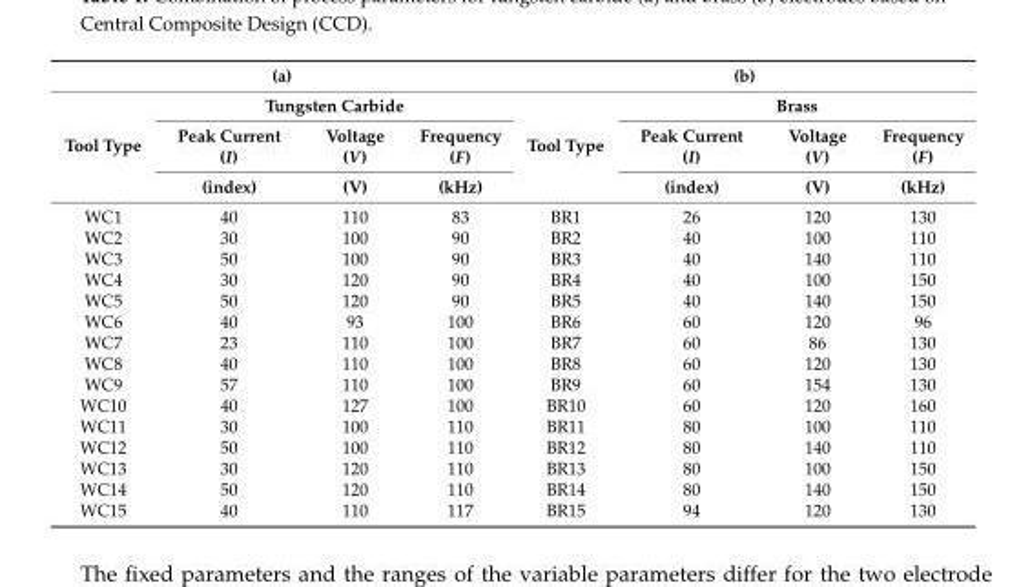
<table><thead><tr><td colspan="4">(a)</td><td colspan="4">(b)</td></tr><tr><td rowspan="3">Tool Type</td><td colspan="3">Tungsten Carbide</td><td rowspan="3">Tool Type</td><td colspan="3">Brass</td></tr><tr><td rowspan="2">Peak Current (I) (index)</td><td rowspan="2">Voltage (V) (V)</td><td rowspan="2">Frequency (F) (kHz)</td><td rowspan="2">Peak Current (I) (index)</td><td rowspan="2">Voltage (V) (V)</td><td rowspan="2">Frequency (F) (kHz)</td></tr><tr></tr></thead><tbody><tr><td>WC1</td><td>40</td><td>110</td><td>83</td><td>BR1</td><td>26</td><td>120</td><td>130</td></tr><tr><td>WC2</td><td>30</td><td>100</td><td>90</td><td>BR2</td><td>40</td><td>100</td><td>110</td></tr><tr><td>WC3</td><td>50</td><td>100</td><td>90</td><td>BR3</td><td>40</td><td>140</td><td>110</td></tr><tr><td>WC4</td><td>30</td><td>120</td><td>90</td><td>BR4</td><td>40</td><td>100</td><td>150</td></tr><tr><td>WC5</td><td>50</td><td>120</td><td>90</td><td>BR5</td><td>40</td><td>140</td><td>150</td></tr><tr><td>WC6</td><td>40</td><td>93</td><td>100</td><td>BR6</td><td>60</td><td>120</td><td>96</td></tr><tr><td>WC7</td><td>23</td><td>110</td><td>100</td><td>BR7</td><td>60</td><td>86</td><td>130</td></tr><tr><td>WC8</td><td>40</td><td>110</td><td>100</td><td>BR8</td><td>60</td><td>120</td><td>130</td></tr><tr><td>WC9</td><td>57</td><td>110</td><td>100</td><td>BR9</td><td>60</td><td>154</td><td>130</td></tr><tr><td>WC10</td><td>40</td><td>127</td><td>100</td><td>BR10</td><td>60</td><td>120</td><td>160</td></tr><tr><td>WC11</td><td>30</td><td>100</td><td>110</td><td>BR11</td><td>80</td><td>100</td><td>110</td></tr><tr><td>WC12</td><td>50</td><td>100</td><td>110</td><td>BR12</td><td>80</td><td>140</td><td>110</td></tr><tr><td>WC13</td><td>30</td><td>120</td><td>110</td><td>BR13</td><td>80</td><td>100</td><td>150</td></tr><tr><td>WC14</td><td>50</td><td>120</td><td>110</td><td>BR14</td><td>80</td><td>140</td><td>150</td></tr><tr><td>WC15</td><td>40</td><td>110</td><td>117</td><td>BR15</td><td>94</td><td>120</td><td>130</td></tr></tbody></table>